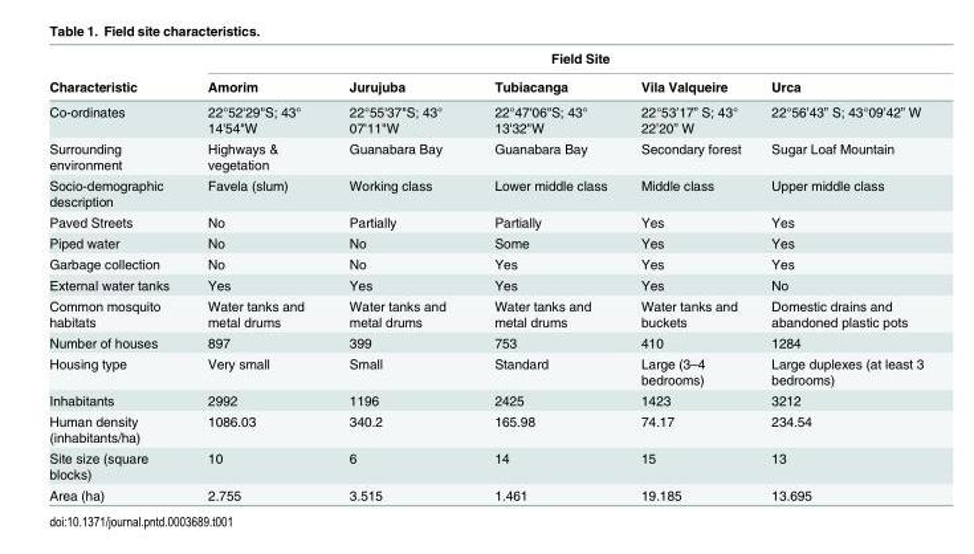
<table><thead><tr><td rowspan="2">Characteristic</td><td colspan="5">Field Site</td></tr><tr><td>Amorim</td><td>Jurujuba</td><td>Tubiacanga</td><td>Vila Valqueire</td><td>Urca</td></tr></thead><tbody><tr><td>Co-ordinates</td><td>22°52&#x27;29&quot;S; 43° 14&#x27;54&quot;W</td><td>22°55&#x27;37&quot;S; 43° 07&#x27;11&quot;W</td><td>22°47&#x27;06&quot;S; 43° 13&#x27;32&quot;W</td><td>22°53’17” S; 43° 22’20” W</td><td>22°56’43” S; 43°09’42” W</td></tr><tr><td>Surrounding environment</td><td>Highways &amp; vegetation</td><td>Guanabara Bay</td><td>Guanabara Bay</td><td>Secondary forest</td><td>Sugar Loaf Mountain</td></tr><tr><td>Socio-demographic description</td><td>Favela (slum)</td><td>Working class</td><td>Lower middle class</td><td>Middle class</td><td>Upper middle class</td></tr><tr><td>Paved Streets</td><td>No</td><td>Partially</td><td>Partially</td><td>Yes</td><td>Yes</td></tr><tr><td>Piped water</td><td>No</td><td>No</td><td>Some</td><td>Yes</td><td>Yes</td></tr><tr><td>Garbage collection</td><td>No</td><td>No</td><td>Yes</td><td>Yes</td><td>Yes</td></tr><tr><td>External water tanks</td><td>Yes</td><td>Yes</td><td>Yes</td><td>Yes</td><td>No</td></tr><tr><td>Common mosquito habitats</td><td>Water tanks and metal drums</td><td>Water tanks and metal drums</td><td>Water tanks and metal drums</td><td>Water tanks and buckets</td><td>Domestic drains and abandoned plastic pots</td></tr><tr><td>Number of houses</td><td>897</td><td>399</td><td>753</td><td>410</td><td>1284</td></tr><tr><td>Housing type</td><td>Very small</td><td>Small</td><td>Standard</td><td>Large (3–4 bedrooms)</td><td>Large duplexes (at least 3 bedrooms)</td></tr><tr><td>Inhabitants</td><td>2992</td><td>1196</td><td>2425</td><td>1423</td><td>3212</td></tr><tr><td>Human density (inhabitants/ha)</td><td>1086.03</td><td>340.2</td><td>165.98</td><td>74.17</td><td>234.54</td></tr><tr><td>Site size (square blocks)</td><td>10</td><td>6</td><td>14</td><td>15</td><td>13</td></tr><tr><td>Area (ha)</td><td>2.755</td><td>3.515</td><td>1.461</td><td>19.185</td><td>13.695</td></tr></tbody></table>